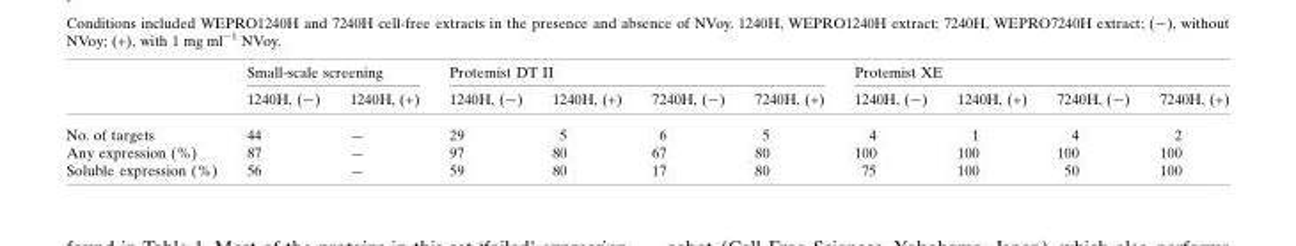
<table><thead><tr><td rowspan="2"></td><td colspan="2">Small-scale screening</td><td colspan="4">Protemist DT II</td><td colspan="4">Protemist XE</td></tr><tr><td>1240H, (−)</td><td>1240H, (+)</td><td>1240H, (−)</td><td>1240H, (+)</td><td>7240H, (−)</td><td>7240H, (+)</td><td>1240H, (−)</td><td>1240H, (+)</td><td>7240H, (−)</td><td>7240H, (+)</td></tr></thead><tbody><tr><td>No. of targets</td><td>44</td><td>—</td><td>29</td><td>5</td><td>6</td><td>5</td><td>4</td><td>1</td><td>4</td><td>2</td></tr><tr><td>Any expression (%)</td><td>87</td><td>—</td><td>97</td><td>80</td><td>67</td><td>80</td><td>100</td><td>100</td><td>100</td><td>100</td></tr><tr><td>Soluble expression (%)</td><td>56</td><td>—</td><td>59</td><td>80</td><td>17</td><td>80</td><td>75</td><td>100</td><td>50</td><td>100</td></tr></tbody></table>